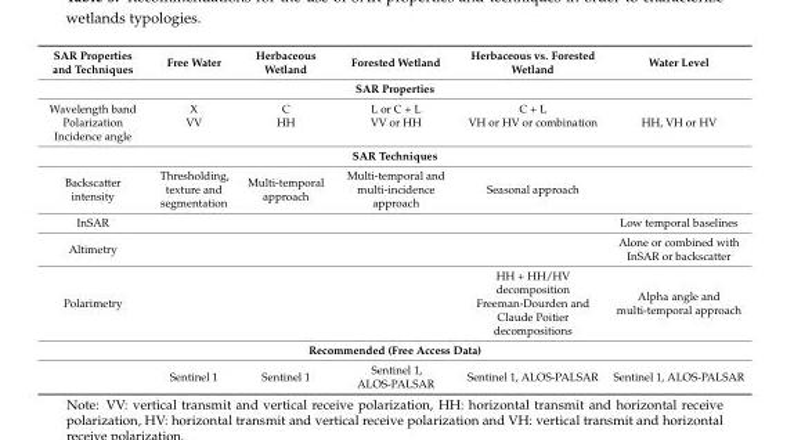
<table><thead><tr><td>SAR Properties and Techniques</td><td>Free Water</td><td>Herbaceous Wetland</td><td>Forested Wetland</td><td>Herbaceous vs. Forested Wetland</td><td>Water Level</td></tr></thead><tbody><tr><td colspan="6">SAR Properties</td></tr><tr><td>Wavelength band</td><td>X</td><td>C</td><td>L or C + L</td><td>C + L</td><td></td></tr><tr><td>Polarization</td><td>VV</td><td>HH</td><td>VV or HH</td><td>VH or HV or combination</td><td>HH, VH or HV</td></tr><tr><td colspan="6">Incidence angle</td></tr><tr><td colspan="6">SAR Techniques</td></tr><tr><td>Backscatter intensity</td><td>Thresholding, texture and segmentation</td><td>Multi-temporal approach</td><td>Multi-temporal and multi-incidence approach</td><td>Seasonal approach</td><td></td></tr><tr><td>InSAR</td><td></td><td></td><td></td><td></td><td>Low temporal baselines</td></tr><tr><td>Altimetry</td><td></td><td></td><td></td><td></td><td>Alone or combined with InSAR or backscatter</td></tr><tr><td>Polarimetry</td><td></td><td></td><td></td><td>HH + HH/HV decomposition Freeman-Dourden and Claude Poitier decompositions</td><td>Alpha angle and multi-temporal approach</td></tr><tr><td colspan="6">Recommended (Free Access Data)</td></tr><tr><td></td><td>Sentinel 1</td><td>Sentinel 1</td><td>Sentinel 1, ALOS-PALSAR</td><td>Sentinel 1, ALOS-PALSAR</td><td>Sentinel 1, ALOS-PALSAR</td></tr></tbody></table>